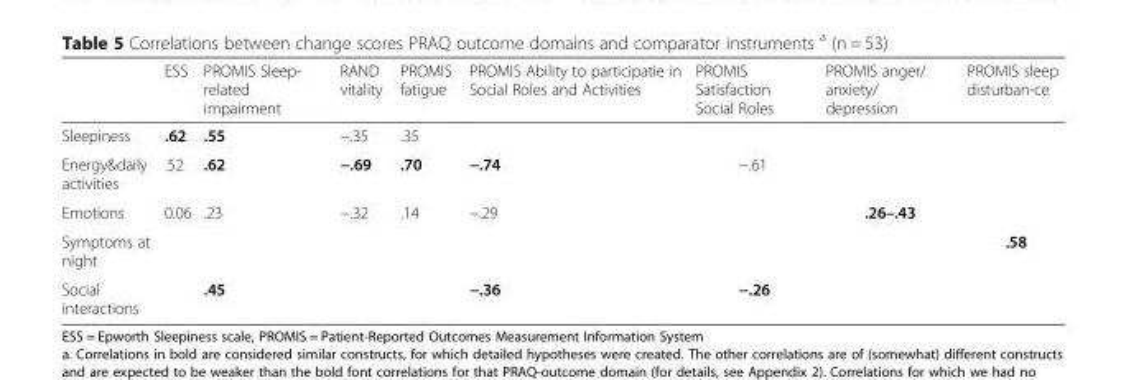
<table><thead><tr><td></td><td>ESS</td><td>PROMIS Sleep- related impairment</td><td>RAND vitality</td><td>PROMIS fatigue</td><td>PROMIS Ability to participatie in Social Roles and Activities</td><td>PROMIS Satisfaction Social Roles</td><td>PROMIS anger/ anxiety/ depression</td><td>PROMIS sleep disturban-ce</td></tr></thead><tbody><tr><td>Sleepiness</td><td>.62</td><td>.55</td><td>−.35</td><td>.35</td><td></td><td></td><td></td><td></td></tr><tr><td>Energy&amp;daily activities</td><td>.52</td><td>.62</td><td>−.69</td><td>.70</td><td>−.74</td><td>−.61</td><td></td><td></td></tr><tr><td>Emotions</td><td>0.06</td><td>.23</td><td>−.32</td><td>.14</td><td>−.29</td><td></td><td>.26–.43</td><td></td></tr><tr><td>Symptoms at night</td><td></td><td></td><td></td><td></td><td></td><td></td><td></td><td>.58</td></tr><tr><td>Social interactions</td><td></td><td>.45</td><td></td><td></td><td>−.36</td><td>−.26</td><td></td><td></td></tr></tbody></table>